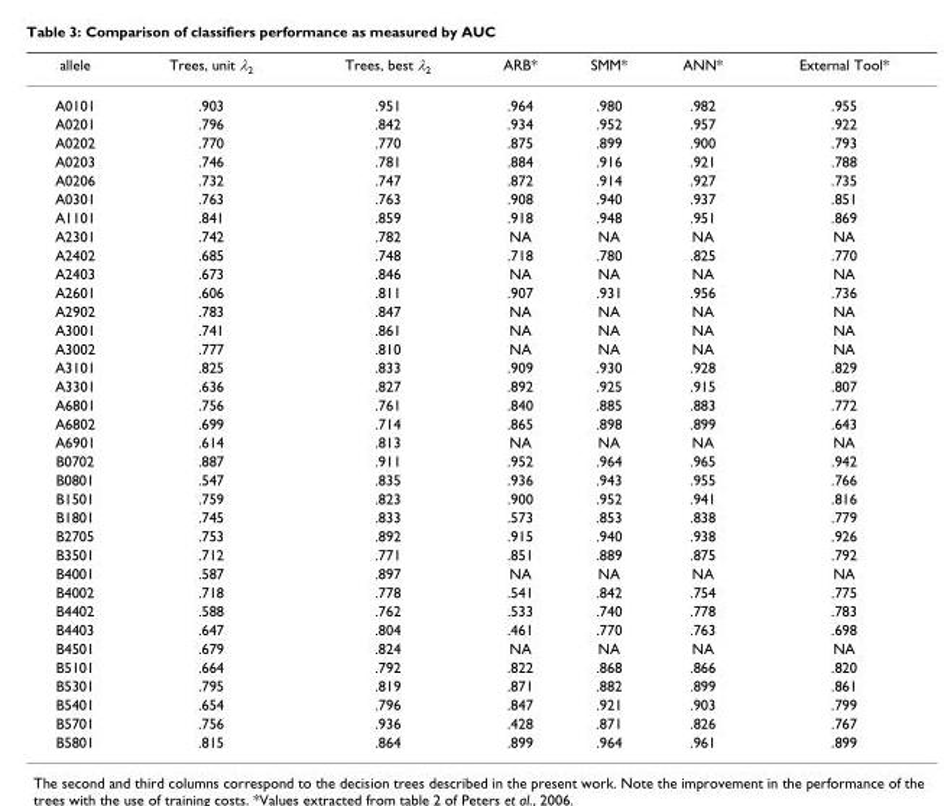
<table><thead><tr><td>allele</td><td>Trees, unit λ<sub>2</sub></td><td>Trees, best λ<sub>2</sub></td><td>ARB*</td><td>SMM*</td><td>ANN*</td><td>External Tool*</td></tr></thead><tbody><tr><td>A0101</td><td>.903</td><td>.951</td><td>.964</td><td>.980</td><td>.982</td><td>.955</td></tr><tr><td>A0201</td><td>.796</td><td>.842</td><td>.934</td><td>.952</td><td>.957</td><td>.922</td></tr><tr><td>A0202</td><td>.770</td><td>.770</td><td>.875</td><td>.899</td><td>.900</td><td>.793</td></tr><tr><td>A0203</td><td>.746</td><td>.781</td><td>.884</td><td>.916</td><td>.921</td><td>.788</td></tr><tr><td>A0206</td><td>.732</td><td>.747</td><td>.872</td><td>.914</td><td>.927</td><td>.735</td></tr><tr><td>A0301</td><td>.763</td><td>.763</td><td>.908</td><td>.940</td><td>.937</td><td>.851</td></tr><tr><td>A1101</td><td>.841</td><td>.859</td><td>.918</td><td>.948</td><td>.951</td><td>.869</td></tr><tr><td>A2301</td><td>.742</td><td>.782</td><td>NA</td><td>NA</td><td>NA</td><td>NA</td></tr><tr><td>A2402</td><td>.685</td><td>.748</td><td>.718</td><td>.780</td><td>.825</td><td>.770</td></tr><tr><td>A2403</td><td>.673</td><td>.846</td><td>NA</td><td>NA</td><td>NA</td><td>NA</td></tr><tr><td>A2601</td><td>.606</td><td>.811</td><td>.907</td><td>.931</td><td>.956</td><td>.736</td></tr><tr><td>A2902</td><td>.783</td><td>.847</td><td>NA</td><td>NA</td><td>NA</td><td>NA</td></tr><tr><td>A3001</td><td>.741</td><td>.861</td><td>NA</td><td>NA</td><td>NA</td><td>NA</td></tr><tr><td>A3002</td><td>.777</td><td>.810</td><td>NA</td><td>NA</td><td>NA</td><td>NA</td></tr><tr><td>A3101</td><td>.825</td><td>.833</td><td>.909</td><td>.930</td><td>.928</td><td>.829</td></tr><tr><td>A3301</td><td>.636</td><td>.827</td><td>.892</td><td>.925</td><td>.915</td><td>.807</td></tr><tr><td>A6801</td><td>.756</td><td>.761</td><td>.840</td><td>.885</td><td>.883</td><td>.772</td></tr><tr><td>A6802</td><td>.699</td><td>.714</td><td>.865</td><td>.898</td><td>.899</td><td>.643</td></tr><tr><td>A6901</td><td>.614</td><td>.813</td><td>NA</td><td>NA</td><td>NA</td><td>NA</td></tr><tr><td>B0702</td><td>.887</td><td>.911</td><td>.952</td><td>.964</td><td>.965</td><td>.942</td></tr><tr><td>B0801</td><td>.547</td><td>.835</td><td>.936</td><td>.943</td><td>.955</td><td>.766</td></tr><tr><td>B1501</td><td>.759</td><td>.823</td><td>.900</td><td>.952</td><td>.941</td><td>.816</td></tr><tr><td>B1801</td><td>.745</td><td>.833</td><td>.573</td><td>.853</td><td>.838</td><td>.779</td></tr><tr><td>B2705</td><td>.753</td><td>.892</td><td>.915</td><td>.940</td><td>.938</td><td>.926</td></tr><tr><td>B3501</td><td>.712</td><td>.771</td><td>.851</td><td>.889</td><td>.875</td><td>.792</td></tr><tr><td>B4001</td><td>.587</td><td>.897</td><td>NA</td><td>NA</td><td>NA</td><td>NA</td></tr><tr><td>B4002</td><td>.718</td><td>.778</td><td>.541</td><td>.842</td><td>.754</td><td>.775</td></tr><tr><td>B4402</td><td>.588</td><td>.762</td><td>.533</td><td>.740</td><td>.778</td><td>.783</td></tr><tr><td>B4403</td><td>.647</td><td>.804</td><td>.461</td><td>.770</td><td>.763</td><td>.698</td></tr><tr><td>B4501</td><td>.679</td><td>.824</td><td>NA</td><td>NA</td><td>NA</td><td>NA</td></tr><tr><td>B5101</td><td>.664</td><td>.792</td><td>.822</td><td>.868</td><td>.866</td><td>.820</td></tr><tr><td>B5301</td><td>.795</td><td>.819</td><td>.871</td><td>.882</td><td>.899</td><td>.861</td></tr><tr><td>B5401</td><td>.654</td><td>.796</td><td>.847</td><td>.921</td><td>.903</td><td>.799</td></tr><tr><td>B5701</td><td>.756</td><td>.936</td><td>.428</td><td>.871</td><td>.826</td><td>.767</td></tr><tr><td>B5801</td><td>.815</td><td>.864</td><td>.899</td><td>.964</td><td>.961</td><td>.899</td></tr></tbody></table>